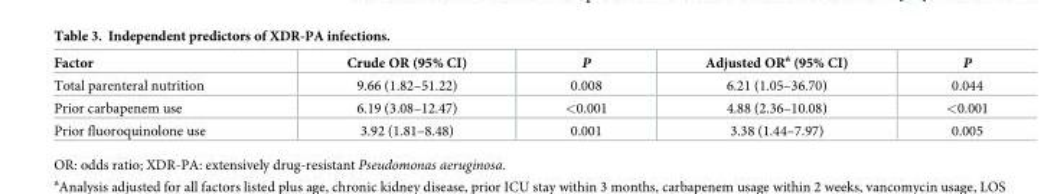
<table><thead><tr><td>Factor</td><td>Crude OR (95% CI)</td><td>P</td><td>Adjusted OR<sup>a</sup> (95% CI)</td><td>P</td></tr></thead><tbody><tr><td>Total parenteral nutrition</td><td>9.66 (1.82–51.22)</td><td>0.008</td><td>6.21 (1.05–36.70)</td><td>0.044</td></tr><tr><td>Prior carbapenem use</td><td>6.19 (3.08–12.47)</td><td>&lt;0.001</td><td>4.88 (2.36–10.08)</td><td>&lt;0.001</td></tr><tr><td>Prior fluoroquinolone use</td><td>3.92 (1.81–8.48)</td><td>0.001</td><td>3.38 (1.44–7.97)</td><td>0.005</td></tr></tbody></table>